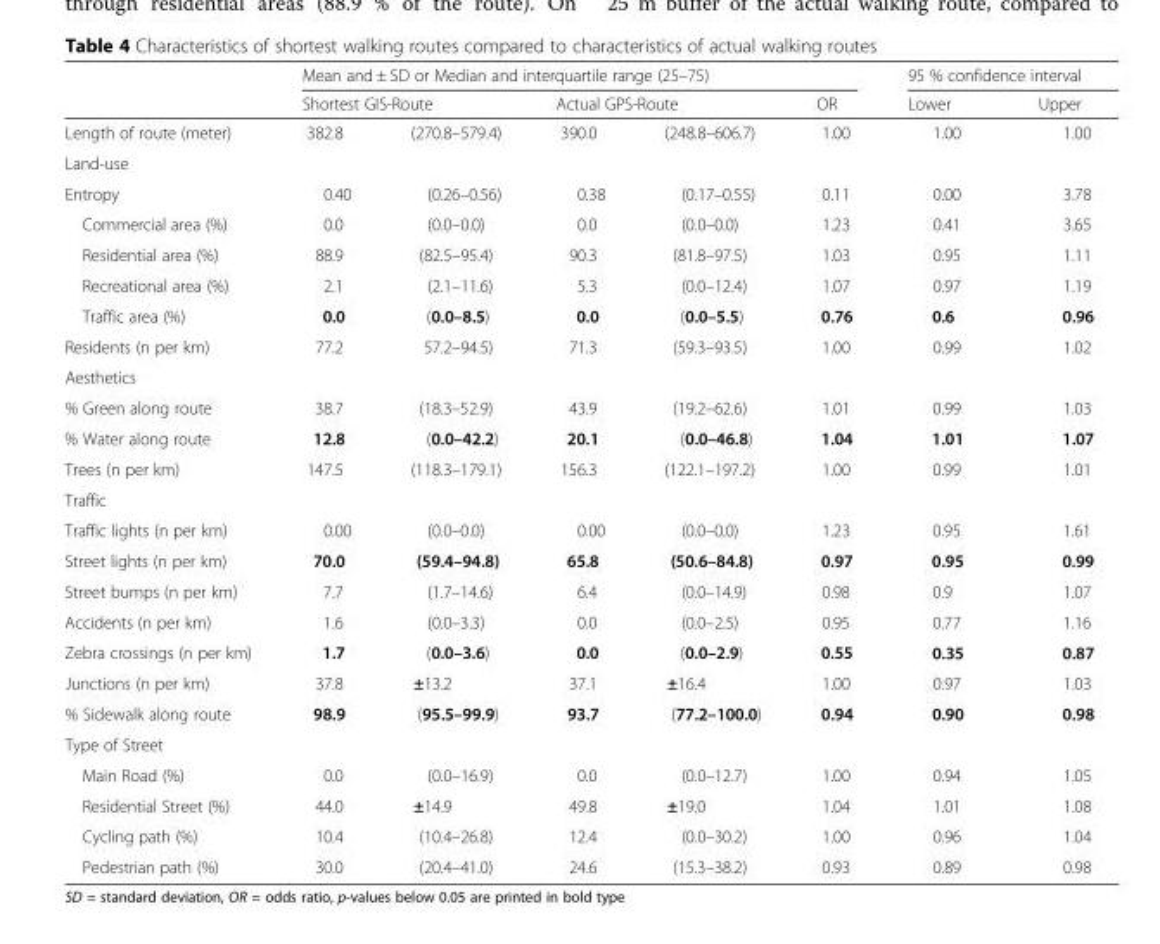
<table><thead><tr><td rowspan="3">Length of route (meter)</td><td colspan="5">Mean and ± SD or Median and interquartile range (25–75)</td><td colspan="2">95 % confidence interval</td></tr><tr><td colspan="2">Shortest GIS-Route</td><td colspan="2">Actual GPS-Route</td><td rowspan="2">OR 1.00</td><td rowspan="2">Lower 1.00</td><td rowspan="2">Upper 1.00</td></tr><tr><td>382.8</td><td>(270.8–579.4)</td><td>390.0</td><td>(248.8–606.7)</td></tr></thead><tbody><tr><td colspan="8">Land-use</td></tr><tr><td>Entropy</td><td>0.40</td><td>(0.26–0.56)</td><td>0.38</td><td>(0.17–0.55)</td><td>0.11</td><td>0.00</td><td>3.78</td></tr><tr><td>Commercial area (%)</td><td>0.0</td><td>(0.0–0.0)</td><td>0.0</td><td>(0.0–0.0)</td><td>1.23</td><td>0.41</td><td>3.65</td></tr><tr><td>Residential area (%)</td><td>88.9</td><td>(82.5–95.4)</td><td>90.3</td><td>(81.8–97.5)</td><td>1.03</td><td>0.95</td><td>1.11</td></tr><tr><td>Recreational area (%)</td><td>2.1</td><td>(2.1–11.6)</td><td>5.3</td><td>(0.0–12.4)</td><td>1.07</td><td>0.97</td><td>1.19</td></tr><tr><td>Traffic area (%)</td><td>0.0</td><td>(0.0–8.5)</td><td>0.0</td><td>(0.0–5.5)</td><td>0.76</td><td>0.6</td><td>0.96</td></tr><tr><td>Residents (n per km)</td><td>77.2</td><td>57.2–94.5)</td><td>71.3</td><td>(59.3–93.5)</td><td>1.00</td><td>0.99</td><td>1.02</td></tr><tr><td colspan="8">Aesthetics</td></tr><tr><td>% Green along route</td><td>38.7</td><td>(18.3–52.9)</td><td>43.9</td><td>(19.2–62.6)</td><td>1.01</td><td>0.99</td><td>1.03</td></tr><tr><td>% Water along route</td><td>12.8</td><td>(0.0–42.2)</td><td>20.1</td><td>(0.0–46.8)</td><td>1.04</td><td>1.01</td><td>1.07</td></tr><tr><td>Trees (n per km)</td><td>147.5</td><td>(118.3–179.1)</td><td>156.3</td><td>(122.1–197.2)</td><td>1.00</td><td>0.99</td><td>1.01</td></tr><tr><td colspan="8">Traffic</td></tr><tr><td>Traffic lights (n per km)</td><td>0.00</td><td>(0.0–0.0)</td><td>0.00</td><td>(0.0–0.0)</td><td>1.23</td><td>0.95</td><td>1.61</td></tr><tr><td>Street lights (n per km)</td><td>70.0</td><td>(59.4–94.8)</td><td>65.8</td><td>(50.6–84.8)</td><td>0.97</td><td>0.95</td><td>0.99</td></tr><tr><td>Street bumps (n per km)</td><td>7.7</td><td>(1.7–14.6)</td><td>6.4</td><td>(0.0–14.9)</td><td>0.98</td><td>0.9</td><td>1.07</td></tr><tr><td>Accidents (n per km)</td><td>1.6</td><td>(0.0–3.3)</td><td>0.0</td><td>(0.0–2.5)</td><td>0.95</td><td>0.77</td><td>1.16</td></tr><tr><td>Zebra crossings (n per km)</td><td>1.7</td><td>(0.0–3.6)</td><td>0.0</td><td>(0.0–2.9)</td><td>0.55</td><td>0.35</td><td>0.87</td></tr><tr><td>Junctions (n per km)</td><td>37.8</td><td>±13.2</td><td>37.1</td><td>±16.4</td><td>1.00</td><td>0.97</td><td>1.03</td></tr><tr><td>% Sidewalk along route</td><td>98.9</td><td>(95.5–99.9)</td><td>93.7</td><td>(77.2–100.0)</td><td>0.94</td><td>0.90</td><td>0.98</td></tr><tr><td colspan="8">Type of Street</td></tr><tr><td>Main Road (%)</td><td>0.0</td><td>(0.0–16.9)</td><td>0.0</td><td>(0.0–12.7)</td><td>1.00</td><td>0.94</td><td>1.05</td></tr><tr><td>Residential Street (%)</td><td>44.0</td><td>±14.9</td><td>49.8</td><td>±19.0</td><td>1.04</td><td>1.01</td><td>1.08</td></tr><tr><td>Cycling path (%)</td><td>10.4</td><td>(10.4–26.8)</td><td>12.4</td><td>(0.0–30.2)</td><td>1.00</td><td>0.96</td><td>1.04</td></tr><tr><td>Pedestrian path (%)</td><td>30.0</td><td>(20.4–41.0)</td><td>24.6</td><td>(15.3–38.2)</td><td>0.93</td><td>0.89</td><td>0.98</td></tr></tbody></table>